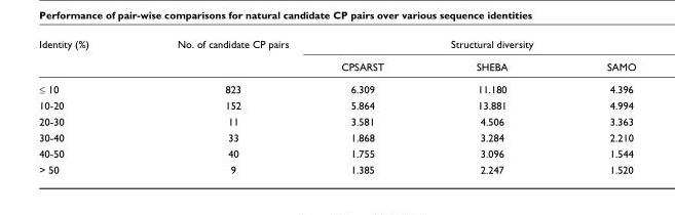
<table><thead><tr><td rowspan="2">Identity (%)</td><td rowspan="2">No. of candidate CP pairs</td><td colspan="3">Structural diversity</td></tr><tr><td>CPSARST</td><td>SHEBA</td><td>SAMO</td></tr></thead><tbody><tr><td>≤ 10</td><td>823</td><td>6.309</td><td>11.180</td><td>4.396</td></tr><tr><td>10-20</td><td>152</td><td>5.864</td><td>13.881</td><td>4.994</td></tr><tr><td>20-30</td><td>11</td><td>3.581</td><td>4.506</td><td>3.363</td></tr><tr><td>30-40</td><td>33</td><td>1.868</td><td>3.284</td><td>2.210</td></tr><tr><td>40-50</td><td>40</td><td>1.755</td><td>3.096</td><td>1.544</td></tr><tr><td>&gt; 50</td><td>9</td><td>1.385</td><td>2.247</td><td>1.520</td></tr></tbody></table>